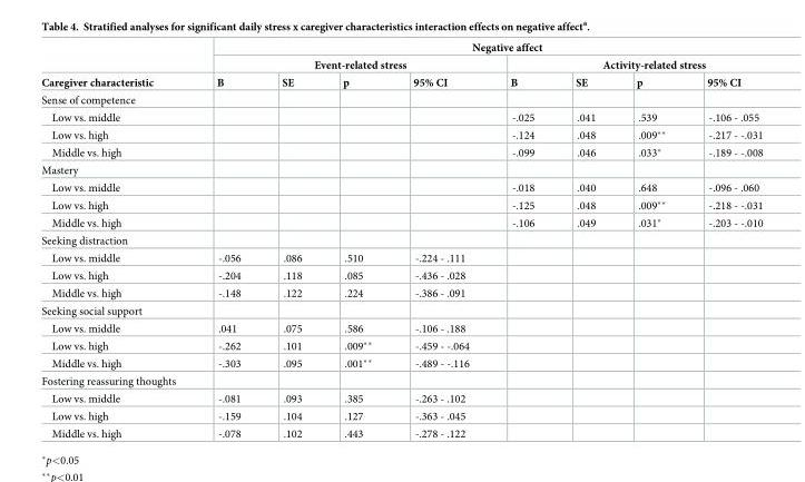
<table><thead><tr><td rowspan="3">Caregiver characteristic</td><td colspan="8">Negative affect</td></tr><tr><td colspan="4">Event-related stress</td><td colspan="4">Activity-related stress</td></tr><tr><td>B</td><td>SE</td><td>p</td><td>95% CI</td><td>B</td><td>SE</td><td>p</td><td>95% CI</td></tr></thead><tbody><tr><td colspan="9">Sense of competence</td></tr><tr><td>Low vs. middle</td><td></td><td></td><td></td><td></td><td>-.025</td><td>.041</td><td>.539</td><td>-.106 - .055</td></tr><tr><td>Low vs. high</td><td></td><td></td><td></td><td></td><td>-.124</td><td>.048</td><td>.009**</td><td>-.217 - -.031</td></tr><tr><td>Middle vs. high</td><td></td><td></td><td></td><td></td><td>-.099</td><td>.046</td><td>.033*</td><td>-.189 - -.008</td></tr><tr><td colspan="9">Mastery</td></tr><tr><td>Low vs. middle</td><td></td><td></td><td></td><td></td><td>-.018</td><td>.040</td><td>.648</td><td>-.096 - .060</td></tr><tr><td>Low vs. high</td><td></td><td></td><td></td><td></td><td>-.125</td><td>.048</td><td>.009**</td><td>-.218 - -.031</td></tr><tr><td>Middle vs. high</td><td></td><td></td><td></td><td></td><td>-.106</td><td>.049</td><td>.031*</td><td>-.203 - -.010</td></tr><tr><td colspan="9">Seeking distraction</td></tr><tr><td>Low vs. middle</td><td>-.056</td><td>.086</td><td>.510</td><td>-.224 - .111</td><td></td><td></td><td></td><td></td></tr><tr><td>Low vs. high</td><td>-.204</td><td>.118</td><td>.085</td><td>-.436 - .028</td><td></td><td></td><td></td><td></td></tr><tr><td>Middle vs. high</td><td>-.148</td><td>.122</td><td>.224</td><td>-.386 - .091</td><td></td><td></td><td></td><td></td></tr><tr><td colspan="9">Seeking social support</td></tr><tr><td>Low vs. middle</td><td>.041</td><td>.075</td><td>.586</td><td>-.106 - .188</td><td></td><td></td><td></td><td></td></tr><tr><td>Low vs. high</td><td>-.262</td><td>.101</td><td>.009**</td><td>-.459 - -.064</td><td></td><td></td><td></td><td></td></tr><tr><td>Middle vs. high</td><td>-.303</td><td>.095</td><td>.001**</td><td>-.489 - -.116</td><td></td><td></td><td></td><td></td></tr><tr><td colspan="9">Fostering reassuring thoughts</td></tr><tr><td>Low vs. middle</td><td>-.081</td><td>.093</td><td>.385</td><td>-.263 - .102</td><td></td><td></td><td></td><td></td></tr><tr><td>Low vs. high</td><td>-.159</td><td>.104</td><td>.127</td><td>-.363 - .045</td><td></td><td></td><td></td><td></td></tr><tr><td>Middle vs. high</td><td>-.078</td><td>.102</td><td>.443</td><td>-.278 - .122</td><td></td><td></td><td></td><td></td></tr></tbody></table>